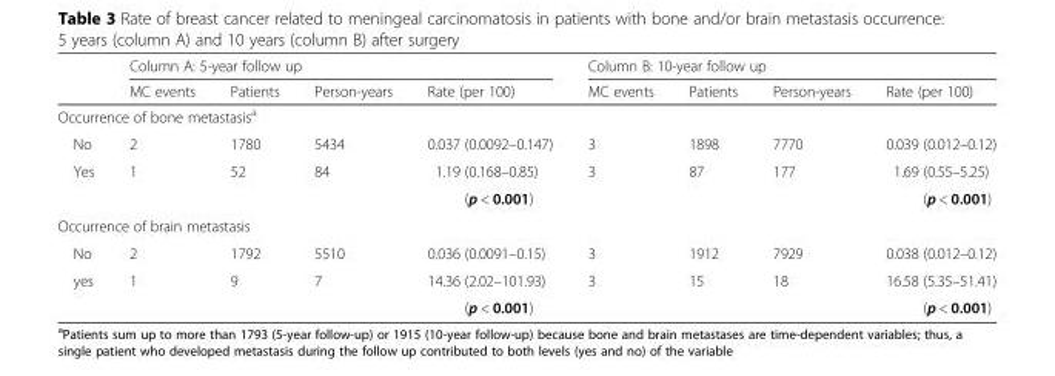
<table><thead><tr><td rowspan="2"></td><td colspan="4">Column A: 5-year follow up</td><td colspan="4">Column B: 10-year follow up</td></tr><tr><td>MC events</td><td>Patients</td><td>Person-years</td><td>Rate (per 100)</td><td>MC events</td><td>Patients</td><td>Person-years</td><td>Rate (per 100)</td></tr></thead><tbody><tr><td colspan="9">Occurrence of bone metastasis<sup>a</sup></td></tr><tr><td>No</td><td>2</td><td>1780</td><td>5434</td><td>0.037 (0.0092–0.147)</td><td>3</td><td>1898</td><td>7770</td><td>0.039 (0.012–0.12)</td></tr><tr><td rowspan="2">Yes</td><td>1</td><td>52</td><td>84</td><td>1.19 (0.168–0.85)</td><td>3</td><td>87</td><td>177</td><td>1.69 (0.55–5.25)</td></tr><tr><td></td><td></td><td></td><td>(p &lt; 0.001)</td><td></td><td></td><td></td><td>(p &lt; 0.001)</td></tr><tr><td colspan="9">Occurrence of brain metastasis</td></tr><tr><td>No</td><td>2</td><td>1792</td><td>5510</td><td>0.036 (0.0091–0.15)</td><td>3</td><td>1912</td><td>7929</td><td>0.038 (0.012–0.12)</td></tr><tr><td rowspan="2">yes</td><td>1</td><td>9</td><td>7</td><td>14.36 (2.02–101.93)</td><td>3</td><td>15</td><td>18</td><td>16.58 (5.35–51.41)</td></tr><tr><td></td><td></td><td></td><td>(p &lt; 0.001)</td><td></td><td></td><td></td><td>(p &lt; 0.001)</td></tr></tbody></table>